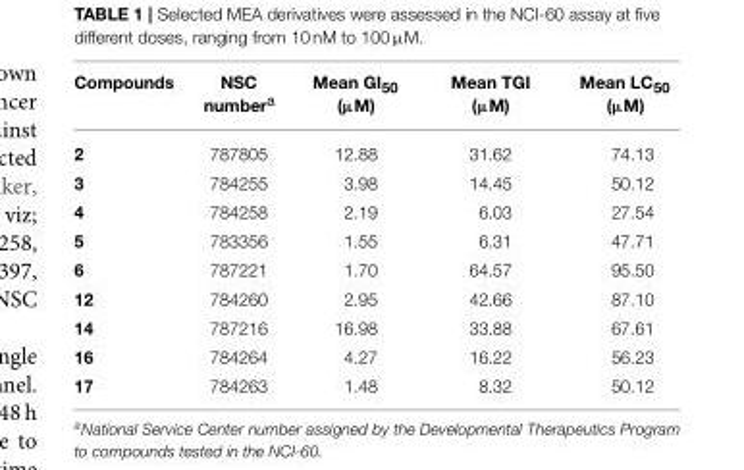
<table><thead><tr><td>Compounds</td><td>NSC number<sup>a</sup></td><td>Mean GI<sub>50</sub> (µM)</td><td>Mean TGI (µM)</td><td>Mean LC<sub>50</sub> (µM)</td></tr></thead><tbody><tr><td>2</td><td>787805</td><td>12.88</td><td>31.62</td><td>74.13</td></tr><tr><td>3</td><td>784255</td><td>3.98</td><td>14.45</td><td>50.12</td></tr><tr><td>4</td><td>784258</td><td>2.19</td><td>6.03</td><td>27.54</td></tr><tr><td>5</td><td>783356</td><td>1.55</td><td>6.31</td><td>47.71</td></tr><tr><td>6</td><td>787221</td><td>1.70</td><td>64.57</td><td>95.50</td></tr><tr><td>12</td><td>784260</td><td>2.95</td><td>42.66</td><td>87.10</td></tr><tr><td>14</td><td>787216</td><td>16.98</td><td>33.88</td><td>67.61</td></tr><tr><td>16</td><td>784264</td><td>4.27</td><td>16.22</td><td>56.23</td></tr><tr><td>17</td><td>784263</td><td>1.48</td><td>8.32</td><td>50.12</td></tr></tbody></table>